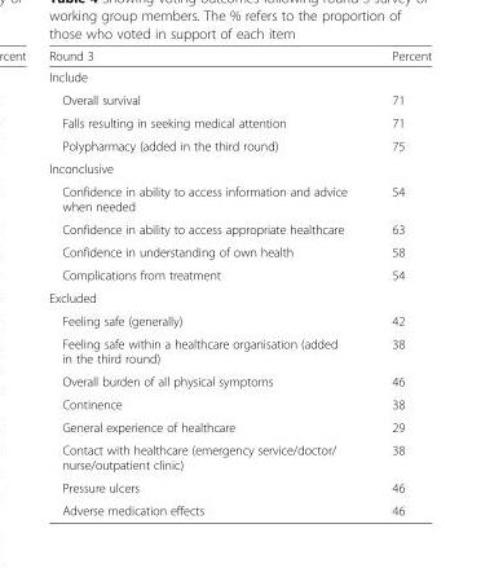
<table><thead><tr><td>Round 3</td><td>Percent</td></tr></thead><tbody><tr><td colspan="2">Include</td></tr><tr><td>Overall survival</td><td>71</td></tr><tr><td>Falls resulting in seeking medical attention</td><td>71</td></tr><tr><td>Polypharmacy (added in the third round)</td><td>75</td></tr><tr><td colspan="2">Inconclusive</td></tr><tr><td>Confidence in ability to access information and advice when needed</td><td>54</td></tr><tr><td>Confidence in ability to access appropriate healthcare</td><td>63</td></tr><tr><td>Confidence in understanding of own health</td><td>58</td></tr><tr><td>Complications from treatment</td><td>54</td></tr><tr><td colspan="2">Excluded</td></tr><tr><td>Feeling safe (generally)</td><td>42</td></tr><tr><td>Feeling safe within a healthcare organisation (added in the third round)</td><td>38</td></tr><tr><td>Overall burden of all physical symptoms</td><td>46</td></tr><tr><td>Continence</td><td>38</td></tr><tr><td>General experience of healthcare</td><td>29</td></tr><tr><td>Contact with healthcare (emergency service/doctor/ nurse/outpatient clinic)</td><td>38</td></tr><tr><td>Pressure ulcers</td><td>46</td></tr><tr><td>Adverse medication effects</td><td>46</td></tr></tbody></table>